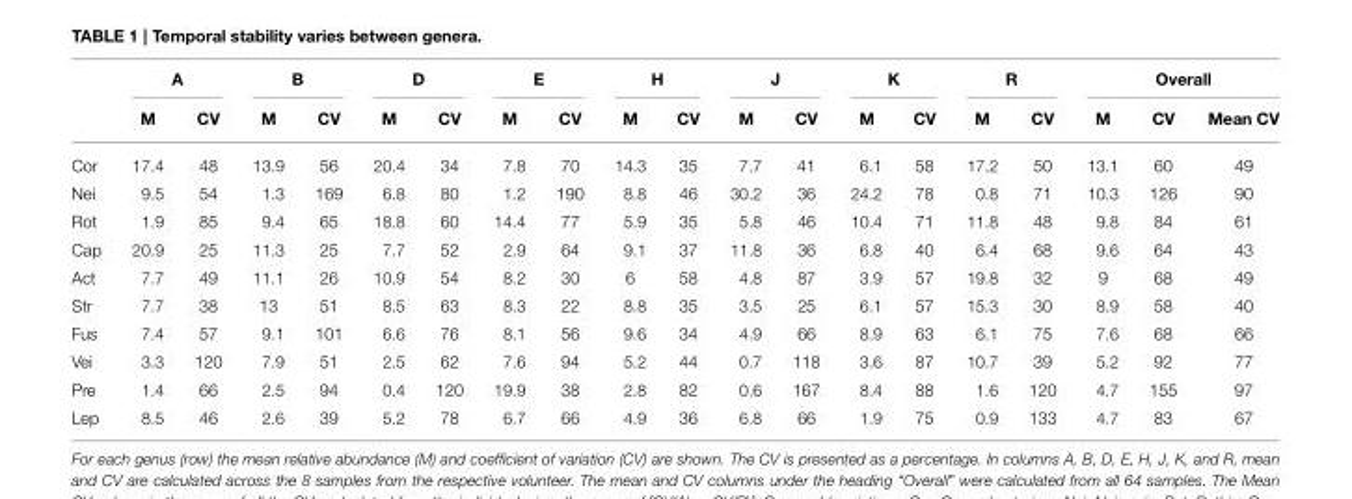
<table><thead><tr><td rowspan="2"></td><td colspan="2">A</td><td colspan="2">B</td><td colspan="2">D</td><td colspan="2">E</td><td colspan="2">H</td><td colspan="2">J</td><td colspan="2">K</td><td colspan="2">R</td><td colspan="3">Overall</td></tr><tr><td>M</td><td>CV</td><td>M</td><td>CV</td><td>M</td><td>CV</td><td>M</td><td>CV</td><td>M</td><td>CV</td><td>M</td><td>CV</td><td>M</td><td>CV</td><td>M</td><td>CV</td><td>M</td><td>CV</td><td>Mean CV</td></tr></thead><tbody><tr><td>Cor</td><td>17.4</td><td>48</td><td>13.9</td><td>56</td><td>20.4</td><td>34</td><td>7.8</td><td>70</td><td>14.3</td><td>35</td><td>7.7</td><td>41</td><td>6.1</td><td>58</td><td>17.2</td><td>50</td><td>13.1</td><td>60</td><td>49</td></tr><tr><td>Nei</td><td>9.5</td><td>54</td><td>1.3</td><td>169</td><td>6.8</td><td>80</td><td>1.2</td><td>190</td><td>8.8</td><td>46</td><td>30.2</td><td>36</td><td>24.2</td><td>78</td><td>0.8</td><td>71</td><td>10.3</td><td>126</td><td>90</td></tr><tr><td>Rot</td><td>1.9</td><td>85</td><td>9.4</td><td>65</td><td>18.8</td><td>60</td><td>14.4</td><td>77</td><td>5.9</td><td>35</td><td>5.8</td><td>46</td><td>10.4</td><td>71</td><td>11.8</td><td>48</td><td>9.8</td><td>84</td><td>61</td></tr><tr><td>Cap</td><td>20.9</td><td>25</td><td>11.3</td><td>25</td><td>7.7</td><td>52</td><td>2.9</td><td>64</td><td>9.1</td><td>37</td><td>11.8</td><td>36</td><td>6.8</td><td>40</td><td>6.4</td><td>68</td><td>9.6</td><td>64</td><td>43</td></tr><tr><td>Act</td><td>7.7</td><td>49</td><td>11.1</td><td>26</td><td>10.9</td><td>54</td><td>8.2</td><td>30</td><td>6</td><td>58</td><td>4.8</td><td>87</td><td>3.9</td><td>57</td><td>19.8</td><td>32</td><td>9</td><td>68</td><td>49</td></tr><tr><td>Str</td><td>7.7</td><td>38</td><td>13</td><td>51</td><td>8.5</td><td>63</td><td>8.3</td><td>22</td><td>8.8</td><td>35</td><td>3.5</td><td>25</td><td>6.1</td><td>57</td><td>15.3</td><td>30</td><td>8.9</td><td>58</td><td>40</td></tr><tr><td>Fus</td><td>7.4</td><td>57</td><td>9.1</td><td>101</td><td>6.6</td><td>76</td><td>8.1</td><td>56</td><td>9.6</td><td>34</td><td>4.9</td><td>66</td><td>8.9</td><td>63</td><td>6.1</td><td>75</td><td>7.6</td><td>68</td><td>66</td></tr><tr><td>Vei</td><td>3.3</td><td>120</td><td>7.9</td><td>51</td><td>2.5</td><td>62</td><td>7.6</td><td>94</td><td>5.2</td><td>44</td><td>0.7</td><td>118</td><td>3.6</td><td>87</td><td>10.7</td><td>39</td><td>5.2</td><td>92</td><td>77</td></tr><tr><td>Pre</td><td>1.4</td><td>66</td><td>2.5</td><td>94</td><td>0.4</td><td>120</td><td>19.9</td><td>38</td><td>2.8</td><td>82</td><td>0.6</td><td>167</td><td>8.4</td><td>88</td><td>1.6</td><td>120</td><td>4.7</td><td>155</td><td>97</td></tr><tr><td>Lep</td><td>8.5</td><td>46</td><td>2.6</td><td>39</td><td>5.2</td><td>78</td><td>6.7</td><td>66</td><td>4.9</td><td>36</td><td>6.8</td><td>66</td><td>1.9</td><td>75</td><td>0.9</td><td>133</td><td>4.7</td><td>83</td><td>67</td></tr></tbody></table>